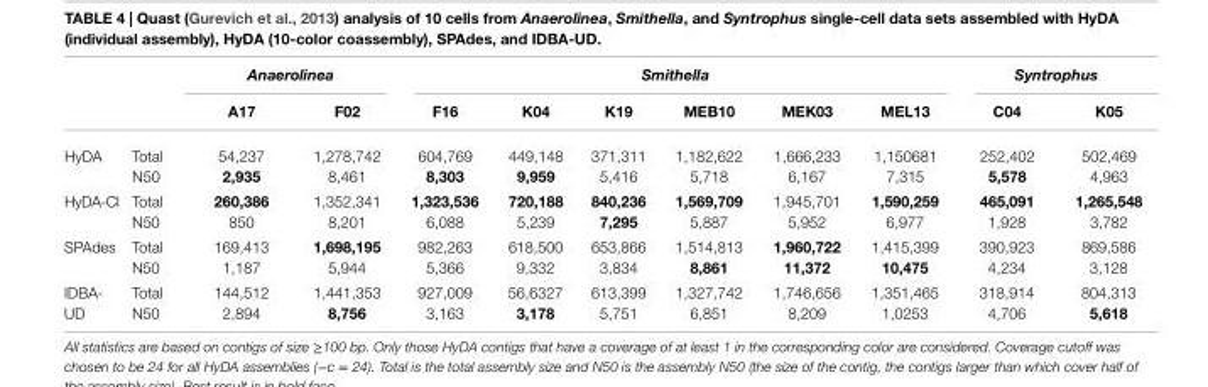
<table><thead><tr><td rowspan="2"></td><td rowspan="2"></td><td colspan="2">Anaerolinea</td><td colspan="6">Smithella</td><td colspan="2">Syntrophus</td></tr><tr><td>A17</td><td>F02</td><td>F16</td><td>K04</td><td>K19</td><td>MeB10</td><td>MeK03</td><td>MeL13</td><td>C04</td><td>K05</td></tr></thead><tbody><tr><td rowspan="2">HyDA</td><td>Total</td><td>54,237</td><td>1,278,742</td><td>604,769</td><td>449,148</td><td>371,311</td><td>1,182,622</td><td>1,666,233</td><td>1,150681</td><td>252,402</td><td>502,469</td></tr><tr><td>N50</td><td>2,935</td><td>8,461</td><td>8,303</td><td>9,959</td><td>5,416</td><td>5,718</td><td>6,167</td><td>7,315</td><td>5,578</td><td>4,963</td></tr><tr><td rowspan="2">HyDA-Cl</td><td>Total</td><td>260,386</td><td>1,352,341</td><td>1,323,536</td><td>720,188</td><td>840,236</td><td>1,569,709</td><td>1,945,701</td><td>1,590,259</td><td>465,091</td><td>1,265,548</td></tr><tr><td>N50</td><td>850</td><td>8,201</td><td>6,088</td><td>5,239</td><td>7,295</td><td>5,887</td><td>5,952</td><td>6,977</td><td>1,928</td><td>3,782</td></tr><tr><td rowspan="2">SPAdes</td><td>Total</td><td>169,413</td><td>1,698,195</td><td>982,263</td><td>618,500</td><td>653,866</td><td>1,514,813</td><td>1,960,722</td><td>1,415,399</td><td>390,923</td><td>869,586</td></tr><tr><td>N50</td><td>1,187</td><td>5,944</td><td>5,366</td><td>9,332</td><td>3,834</td><td>8,861</td><td>11,372</td><td>10,475</td><td>4,234</td><td>3,128</td></tr><tr><td rowspan="2">IDBA- UD</td><td>Total</td><td>144,512</td><td>1,441,353</td><td>927,009</td><td>56,6327</td><td>613,399</td><td>1,327,742</td><td>1,746,656</td><td>1,351,465</td><td>318,914</td><td>804,313</td></tr><tr><td>N50</td><td>2,894</td><td>8,756</td><td>3,163</td><td>3,178</td><td>5,751</td><td>6,851</td><td>8,209</td><td>1,0253</td><td>4,706</td><td>5,618</td></tr></tbody></table>